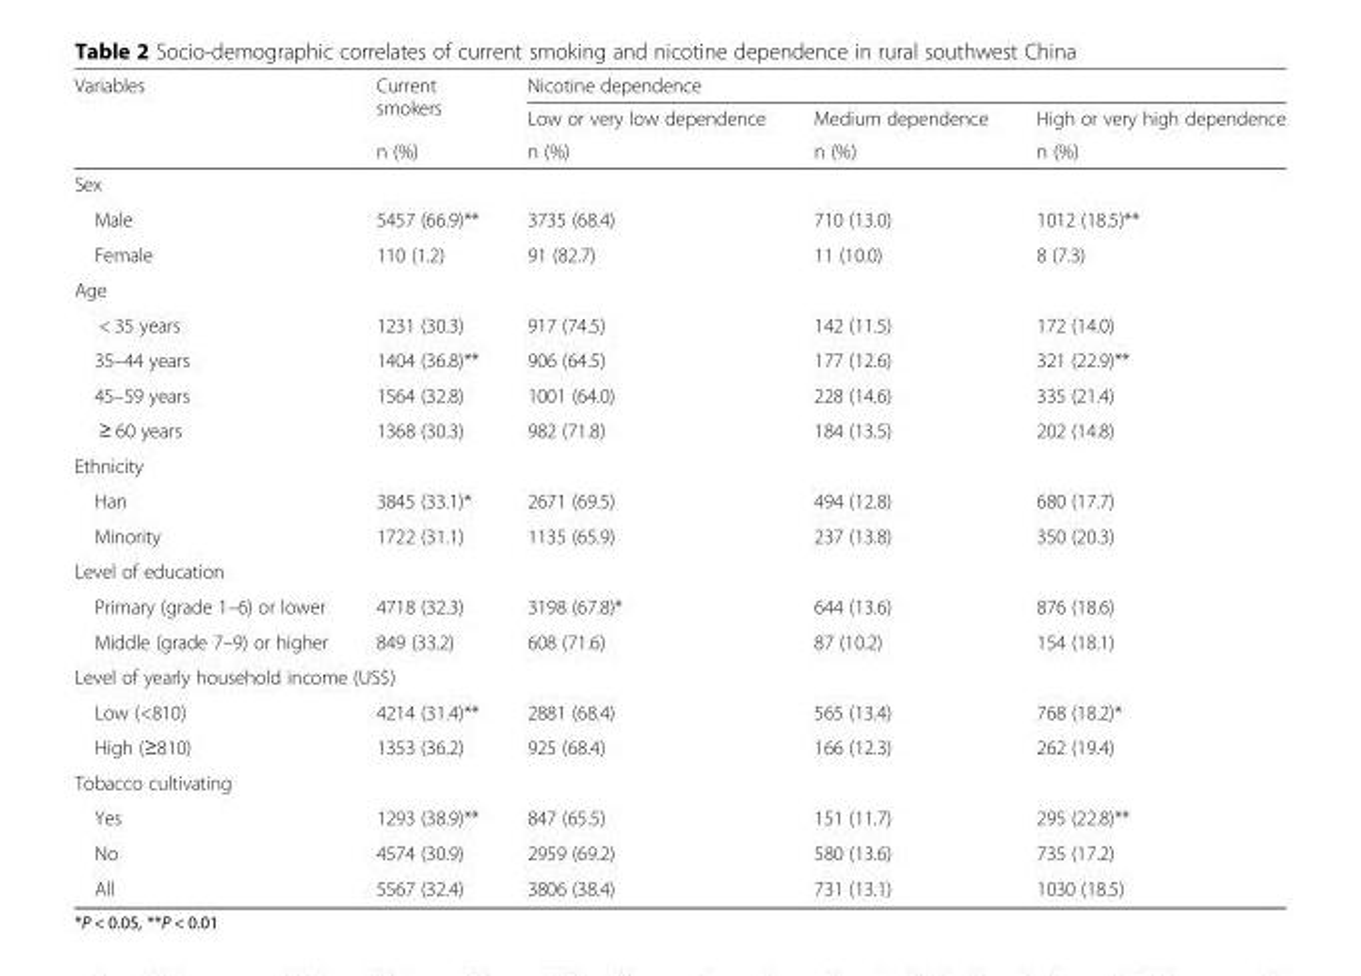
<table><thead><tr><td rowspan="3">Variables</td><td rowspan="3">Current smokers n (%)</td><td colspan="3">Nicotine dependence</td></tr><tr><td rowspan="2">Low or very low dependence n (%)</td><td rowspan="2">Medium dependence n (%)</td><td rowspan="2">High or very high dependence n (%)</td></tr><tr></tr></thead><tbody><tr><td colspan="5">Sex</td></tr><tr><td>Male</td><td>5457 (66.9)**</td><td>3735 (68.4)</td><td>710 (13.0)</td><td>1012 (18.5)**</td></tr><tr><td>Female</td><td>110 (1.2)</td><td>91 (82.7)</td><td>11 (10.0)</td><td>8 (7.3)</td></tr><tr><td colspan="5">Age</td></tr><tr><td>&lt; 35 years</td><td>1231 (30.3)</td><td>917 (74.5)</td><td>142 (11.5)</td><td>172 (14.0)</td></tr><tr><td>35–44 years</td><td>1404 (36.8)**</td><td>906 (64.5)</td><td>177 (12.6)</td><td>321 (22.9)**</td></tr><tr><td>45–59 years</td><td>1564 (32.8)</td><td>1001 (64.0)</td><td>228 (14.6)</td><td>335 (21.4)</td></tr><tr><td>≥ 60 years</td><td>1368 (30.3)</td><td>982 (71.8)</td><td>184 (13.5)</td><td>202 (14.8)</td></tr><tr><td colspan="5">Ethnicity</td></tr><tr><td>Han</td><td>3845 (33.1)*</td><td>2671 (69.5)</td><td>494 (12.8)</td><td>680 (17.7)</td></tr><tr><td>Minority</td><td>1722 (31.1)</td><td>1135 (65.9)</td><td>237 (13.8)</td><td>350 (20.3)</td></tr><tr><td colspan="5">Level of education</td></tr><tr><td>Primary (grade 1–6) or lower</td><td>4718 (32.3)</td><td>3198 (67.8)*</td><td>644 (13.6)</td><td>876 (18.6)</td></tr><tr><td>Middle (grade 7–9) or higher</td><td>849 (33.2)</td><td>608 (71.6)</td><td>87 (10.2)</td><td>154 (18.1)</td></tr><tr><td colspan="5">Level of yearly household income (US$)</td></tr><tr><td>Low (&lt;810)</td><td>4214 (31.4)**</td><td>2881 (68.4)</td><td>565 (13.4)</td><td>768 (18.2)*</td></tr><tr><td>High (≥810)</td><td>1353 (36.2)</td><td>925 (68.4)</td><td>166 (12.3)</td><td>262 (19.4)</td></tr><tr><td colspan="5">Tobacco cultivating</td></tr><tr><td>Yes</td><td>1293 (38.9)**</td><td>847 (65.5)</td><td>151 (11.7)</td><td>295 (22.8)**</td></tr><tr><td>No</td><td>4574 (30.9)</td><td>2959 (69.2)</td><td>580 (13.6)</td><td>735 (17.2)</td></tr><tr><td>All</td><td>5567 (32.4)</td><td>3806 (38.4)</td><td>731 (13.1)</td><td>1030 (18.5)</td></tr></tbody></table>